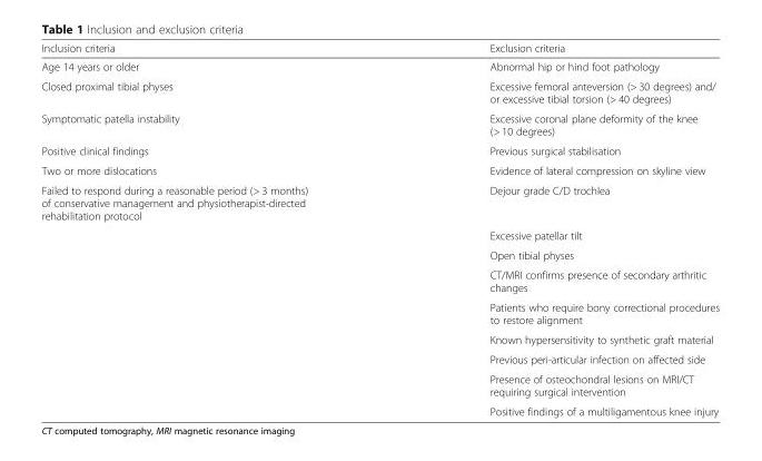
<table><thead><tr><td>Inclusion criteria</td><td>Exclusion criteria</td></tr></thead><tbody><tr><td>Age 14 years or older</td><td>Abnormal hip or hind foot pathology</td></tr><tr><td>Closed proximal tibial physes</td><td>Excessive femoral anteversion (&gt; 30 degrees) and/ or excessive tibial torsion (&gt; 40 degrees)</td></tr><tr><td>Symptomatic patella instability</td><td>Excessive coronal plane deformity of the knee (&gt; 10 degrees)</td></tr><tr><td>Positive clinical findings</td><td>Previous surgical stabilisation</td></tr><tr><td>Two or more dislocations</td><td>Evidence of lateral compression on skyline view</td></tr><tr><td rowspan="9">Failed to respond during a reasonable period (&gt; 3 months) of conservative management and physiotherapist-directed rehabilitation protocol</td><td>Dejour grade C/D trochlea</td></tr><tr><td>Excessive patellar tilt</td></tr><tr><td>Open tibial physes</td></tr><tr><td>CT/MRI confirms presence of secondary arthritic changes</td></tr><tr><td>Patients who require bony correctional procedures to restore alignment</td></tr><tr><td>Known hypersensitivity to synthetic graft material</td></tr><tr><td>Previous peri-articular infection on affected side</td></tr><tr><td>Presence of osteochondral lesions on MRI/CT requiring surgical intervention</td></tr><tr><td>Positive findings of a multiligamentous knee injury</td></tr></tbody></table>